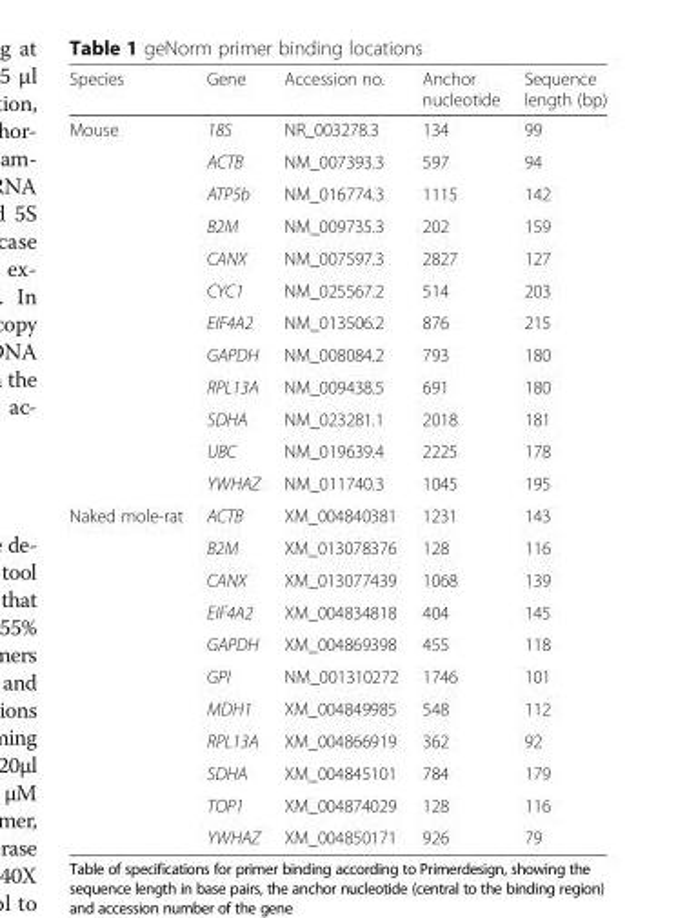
<table><thead><tr><td>Species</td><td>Gene</td><td>Accession no.</td><td>Anchor nucleotide</td><td>Sequence length (bp)</td></tr></thead><tbody><tr><td rowspan="12">Mouse</td><td>18S</td><td>NR_003278.3</td><td>134</td><td>99</td></tr><tr><td>ACTB</td><td>NM_007393.3</td><td>597</td><td>94</td></tr><tr><td>ATP5b</td><td>NM_016774.3</td><td>1115</td><td>142</td></tr><tr><td>B2M</td><td>NM_009735.3</td><td>202</td><td>159</td></tr><tr><td>CANX</td><td>NM_007597.3</td><td>2827</td><td>127</td></tr><tr><td>CYC1</td><td>NM_025567.2</td><td>514</td><td>203</td></tr><tr><td>EIF4A2</td><td>NM_013506.2</td><td>876</td><td>215</td></tr><tr><td>GAPDH</td><td>NM_008084.2</td><td>793</td><td>180</td></tr><tr><td>RPL13A</td><td>NM_009438.5</td><td>691</td><td>180</td></tr><tr><td>SDHA</td><td>NM_023281.1</td><td>2018</td><td>181</td></tr><tr><td>UBC</td><td>NM_019639.4</td><td>2225</td><td>178</td></tr><tr><td>YWHAZ</td><td>NM_011740.3</td><td>1045</td><td>195</td></tr><tr><td rowspan="11">Naked mole-rat</td><td>ACTB</td><td>XM_004840381</td><td>1231</td><td>143</td></tr><tr><td>B2M</td><td>XM_013078376</td><td>128</td><td>116</td></tr><tr><td>CANX</td><td>XM_013077439</td><td>1068</td><td>139</td></tr><tr><td>EIF4A2</td><td>XM_004834818</td><td>404</td><td>145</td></tr><tr><td>GAPDH</td><td>XM_004869398</td><td>455</td><td>118</td></tr><tr><td>GPI</td><td>NM_001310272</td><td>1746</td><td>101</td></tr><tr><td>MDH1</td><td>XM_004849985</td><td>548</td><td>112</td></tr><tr><td>RPL13A</td><td>XM_004866919</td><td>362</td><td>92</td></tr><tr><td>SDHA</td><td>XM_004845101</td><td>784</td><td>179</td></tr><tr><td>TOP1</td><td>XM_004874029</td><td>128</td><td>116</td></tr><tr><td>YWHAZ</td><td>XM_004850171</td><td>926</td><td>79</td></tr></tbody></table>